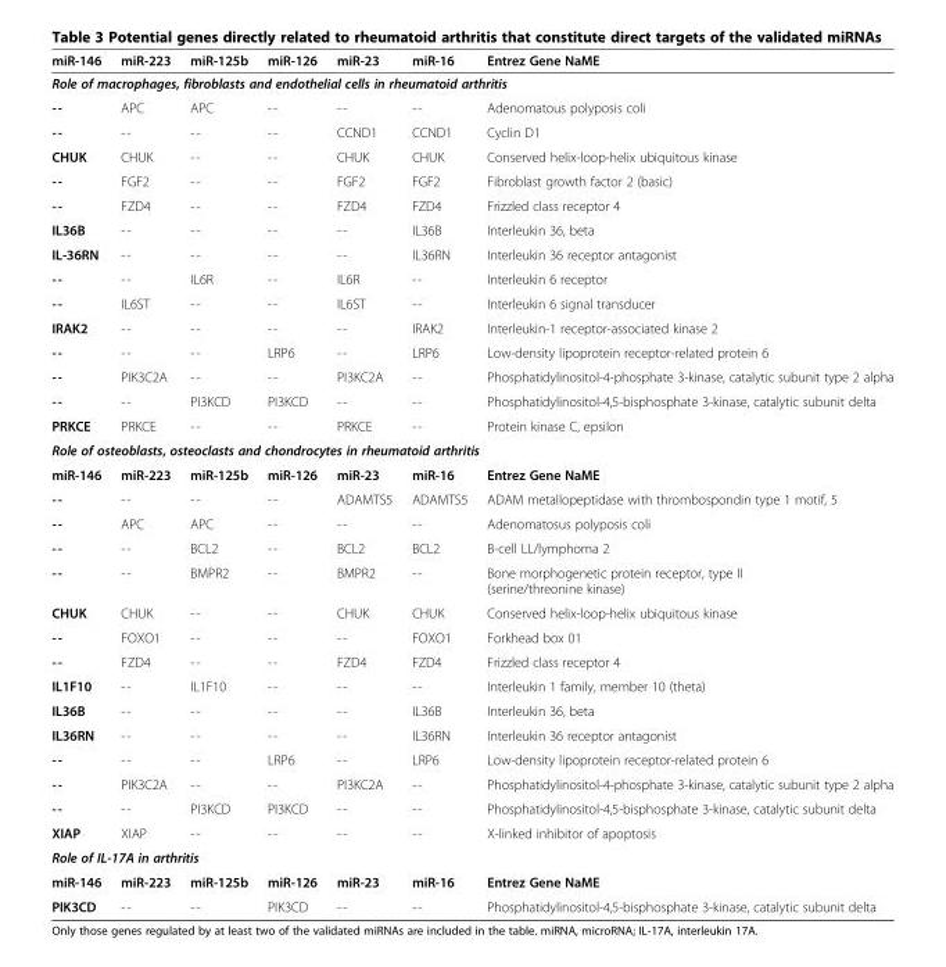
<table><thead><tr><td>miR-146</td><td>miR-223</td><td>miR-125b</td><td>miR-126</td><td>miR-23</td><td>miR-16</td><td>Entrez Gene NaME</td></tr></thead><tbody><tr><td colspan="7">Role of macrophages, fibroblasts and endothelial cells in rheumatoid arthritis</td></tr><tr><td>--</td><td>APC</td><td>APC</td><td>--</td><td>--</td><td>--</td><td>Adenomatous polyposis coli</td></tr><tr><td>--</td><td>--</td><td>--</td><td>--</td><td>CCND1</td><td>CCND1</td><td>Cyclin D1</td></tr><tr><td>CHUK</td><td>CHUK</td><td>--</td><td>--</td><td>CHUK</td><td>CHUK</td><td>Conserved helix-loop-helix ubiquitous kinase</td></tr><tr><td>--</td><td>FGF2</td><td>--</td><td>--</td><td>FGF2</td><td>FGF2</td><td>Fibroblast growth factor 2 (basic)</td></tr><tr><td>--</td><td>FZD4</td><td>--</td><td>--</td><td>FZD4</td><td>FZD4</td><td>Frizzled class receptor 4</td></tr><tr><td>IL36B</td><td>--</td><td>--</td><td>--</td><td>--</td><td>IL36B</td><td>Interleukin 36, beta</td></tr><tr><td>IL-36RN</td><td>--</td><td>--</td><td>--</td><td>--</td><td>IL36RN</td><td>Interleukin 36 receptor antagonist</td></tr><tr><td>--</td><td>--</td><td>IL6R</td><td>--</td><td>IL6R</td><td>--</td><td>Interleukin 6 receptor</td></tr><tr><td>--</td><td>IL6ST</td><td>--</td><td>--</td><td>IL6ST</td><td>--</td><td>Interleukin 6 signal transducer</td></tr><tr><td>IRAK2</td><td>--</td><td>--</td><td>--</td><td>--</td><td>IRAK2</td><td>Interleukin-1 receptor-associated kinase 2</td></tr><tr><td>--</td><td>--</td><td>--</td><td>LRP6</td><td>--</td><td>LRP6</td><td>Low-density lipoprotein receptor-related protein 6</td></tr><tr><td>--</td><td>PIK3C2A</td><td>--</td><td>--</td><td>PI3KC2A</td><td>--</td><td>Phosphatidylinositol-4-phosphate 3-kinase, catalytic subunit type 2 alpha</td></tr><tr><td>--</td><td>--</td><td>PI3KCD</td><td>PI3KCD</td><td>--</td><td>--</td><td>Phosphatidylinositol-4,5-bisphosphate 3-kinase, catalytic subunit delta</td></tr><tr><td>PRKCE</td><td>PRKCE</td><td>--</td><td>--</td><td>PRKCE</td><td>--</td><td>Protein kinase C, epsilon</td></tr><tr><td colspan="7">Role of osteoblasts, osteoclasts and chondrocytes in rheumatoid arthritis</td></tr><tr><td>miR-146</td><td>miR-223</td><td>miR-125b</td><td>miR-126</td><td>miR-23</td><td>miR-16</td><td>Entrez Gene NaME</td></tr><tr><td>--</td><td>--</td><td>--</td><td>--</td><td>ADAMTS5</td><td>ADAMTS5</td><td>ADAM metallopeptidase with thrombospondin type 1 motif, 5</td></tr><tr><td>--</td><td>APC</td><td>APC</td><td>--</td><td>--</td><td>--</td><td>Adenomatosus polyposis coli</td></tr><tr><td>--</td><td>--</td><td>BCL2</td><td>--</td><td>BCL2</td><td>BCL2</td><td>B-cell LL/lymphoma 2</td></tr><tr><td>--</td><td>--</td><td>BMPR2</td><td>--</td><td>BMPR2</td><td>--</td><td>Bone morphogenetic protein receptor, type II (serine/threonine kinase)</td></tr><tr><td>CHUK</td><td>CHUK</td><td>--</td><td>--</td><td>CHUK</td><td>CHUK</td><td>Conserved helix-loop-helix ubiquitous kinase</td></tr><tr><td>--</td><td>FOXO1</td><td>--</td><td>--</td><td>--</td><td>FOXO1</td><td>Forkhead box 01</td></tr><tr><td>--</td><td>FZD4</td><td>--</td><td>--</td><td>FZD4</td><td>FZD4</td><td>Frizzled class receptor 4</td></tr><tr><td>IL1F10</td><td>--</td><td>IL1F10</td><td>--</td><td>--</td><td>--</td><td>Interleukin 1 family, member 10 (theta)</td></tr><tr><td>IL36B</td><td>--</td><td>--</td><td>--</td><td>--</td><td>IL36B</td><td>Interleukin 36, beta</td></tr><tr><td>IL36RN</td><td>--</td><td>--</td><td>--</td><td>--</td><td>IL36RN</td><td>Interleukin 36 receptor antagonist</td></tr><tr><td>--</td><td>--</td><td>--</td><td>LRP6</td><td>--</td><td>LRP6</td><td>Low-density lipoprotein receptor-related protein 6</td></tr><tr><td>--</td><td>PIK3C2A</td><td>--</td><td>--</td><td>PI3KC2A</td><td>--</td><td>Phosphatidylinositol-4-phosphate 3-kinase, catalytic subunit type 2 alpha</td></tr><tr><td>--</td><td>--</td><td>PI3KCD</td><td>PI3KCD</td><td>--</td><td>--</td><td>Phosphatidylinositol-4,5-bisphosphate 3-kinase, catalytic subunit delta</td></tr><tr><td>XIAP</td><td>XIAP</td><td>--</td><td>--</td><td>--</td><td>--</td><td>X-linked inhibitor of apoptosis</td></tr><tr><td colspan="7">Role of IL-17A in arthritis</td></tr><tr><td>miR-146</td><td>miR-223</td><td>miR-125b</td><td>miR-126</td><td>miR-23</td><td>miR-16</td><td>Entrez Gene NaME</td></tr><tr><td>PIK3CD</td><td>--</td><td>--</td><td>PIK3CD</td><td>--</td><td>--</td><td>Phosphatidylinositol-4,5-bisphosphate 3-kinase, catalytic subunit delta</td></tr></tbody></table>